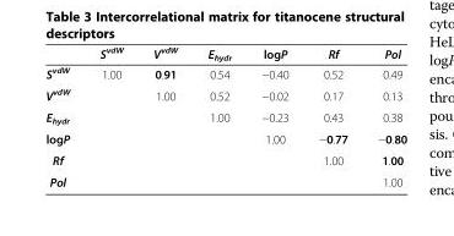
<table><thead><tr><td></td><td>S<sup>vdW</sup></td><td>V<sup>vdW</sup></td><td>E<sub>hydr</sub></td><td>logP</td><td>Rf</td><td>Pol</td></tr></thead><tbody><tr><td>S<sup>vdW</sup></td><td>1.00</td><td>0.91</td><td>0.54</td><td>−0.40</td><td>0.52</td><td>0.49</td></tr><tr><td>V<sup>vdW</sup></td><td></td><td>1.00</td><td>0.52</td><td>−0.02</td><td>0.17</td><td>0.13</td></tr><tr><td>E<sub>hydr</sub></td><td></td><td></td><td>1.00</td><td>−0.23</td><td>0.43</td><td>0.38</td></tr><tr><td>logP</td><td></td><td></td><td></td><td>1.00</td><td>−0.77</td><td>−0.80</td></tr><tr><td>Rf</td><td></td><td></td><td></td><td></td><td>1.00</td><td>1.00</td></tr><tr><td>Pol</td><td></td><td></td><td></td><td></td><td></td><td>1.00</td></tr></tbody></table>